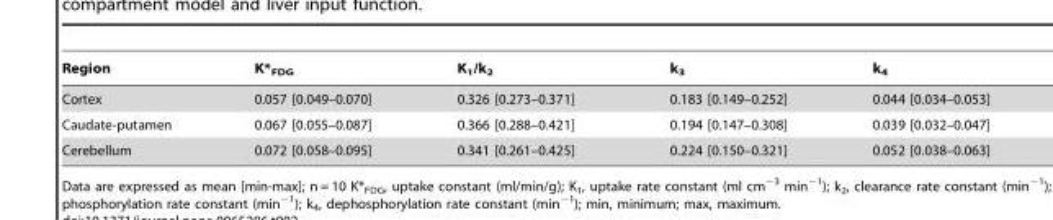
<table><thead><tr><td>Region</td><td>K*<sub>FDG</sub></td><td>K<sub>1</sub>/k<sub>2</sub></td><td>k<sub>3</sub></td><td>k<sub>4</sub></td></tr></thead><tbody><tr><td>Cortex</td><td>0.057 [0.049–0.070]</td><td>0.326 [0.273–0.371]</td><td>0.183 [0.149–0.252]</td><td>0.044 [0.034–0.053]</td></tr><tr><td>Caudate-putamen</td><td>0.067 [0.055–0.087]</td><td>0.366 [0.288–0.421]</td><td>0.194 [0.147–0.308]</td><td>0.039 [0.032–0.047]</td></tr><tr><td>Cerebellum</td><td>0.072 [0.058–0.095]</td><td>0.341 [0.261–0.425]</td><td>0.224 [0.150–0.321]</td><td>0.052 [0.038–0.063]</td></tr></tbody></table>